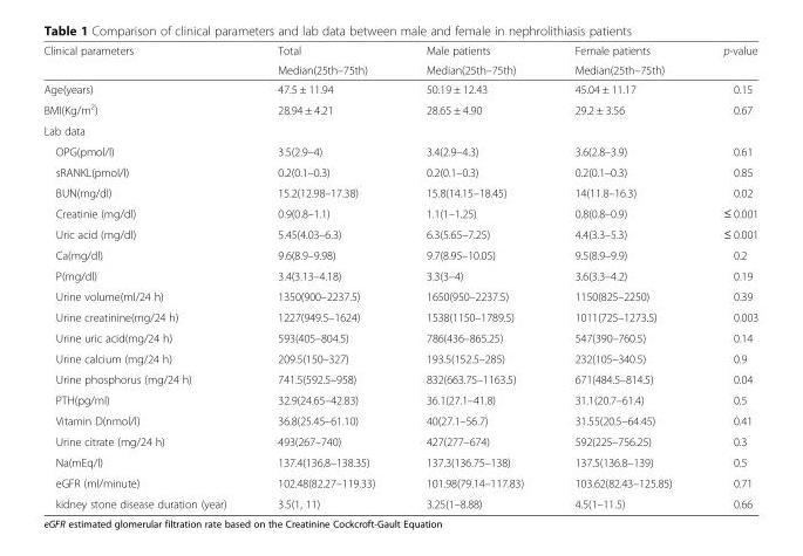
<table><thead><tr><td rowspan="2">Clinical parameters</td><td rowspan="2">Total Median(25th–75th)</td><td rowspan="2">Male patients Median(25th–75th)</td><td rowspan="2">Female patients Median(25th–75th)</td><td rowspan="2">p-value</td></tr><tr></tr></thead><tbody><tr><td>Age(years)</td><td>47.5 ± 11.94</td><td>50.19 ± 12.43</td><td>45.04 ± 11.17</td><td>0.15</td></tr><tr><td>BMI(Kg/m<sup>2</sup>)</td><td>28.94 ± 4.21</td><td>28.65 ± 4.90</td><td>29.2 ± 3.56</td><td>0.67</td></tr><tr><td colspan="5">Lab data</td></tr><tr><td>OPG(pmol/l)</td><td>3.5(2.9–4)</td><td>3.4(2.9–4.3)</td><td>3.6(2.8–3.9)</td><td>0.61</td></tr><tr><td>sRANKL(pmol/l)</td><td>0.2(0.1–0.3)</td><td>0.2(0.1–0.3)</td><td>0.2(0.1–0.3)</td><td>0.85</td></tr><tr><td>BUN(mg/dl)</td><td>15.2(12.98–17.38)</td><td>15.8(14.15–18.45)</td><td>14(11.8–16.3)</td><td>0.02</td></tr><tr><td>Creatinie (mg/dl)</td><td>0.9(0.8–1.1)</td><td>1.1(1–1.25)</td><td>0.8(0.8–0.9)</td><td>≤ 0.001</td></tr><tr><td>Uric acid (mg/dl)</td><td>5.45(4.03–6.3)</td><td>6.3(5.65–7.25)</td><td>4.4(3.3–5.3)</td><td>≤ 0.001</td></tr><tr><td>Ca(mg/dl)</td><td>9.6(8.9–9.98)</td><td>9.7(8.95–10.05)</td><td>9.5(8.9–9.9)</td><td>0.2</td></tr><tr><td>P(mg/dl)</td><td>3.4(3.13–4.18)</td><td>3.3(3–4)</td><td>3.6(3.3–4.2)</td><td>0.19</td></tr><tr><td>Urine volume(ml/24 h)</td><td>1350(900–2237.5)</td><td>1650(950–2237.5)</td><td>1150(825–2250)</td><td>0.39</td></tr><tr><td>Urine creatinine(mg/24 h)</td><td>1227(949.5–1624)</td><td>1538(1150–1789.5)</td><td>1011(725–1273.5)</td><td>0.003</td></tr><tr><td>Urine uric acid(mg/24 h)</td><td>593(405–804.5)</td><td>786(436–865.25)</td><td>547(390–760.5)</td><td>0.14</td></tr><tr><td>Urine calcium (mg/24 h)</td><td>209.5(150–327)</td><td>193.5(152.5–285)</td><td>232(105–340.5)</td><td>0.9</td></tr><tr><td>Urine phosphorus (mg/24 h)</td><td>741.5(592.5–958)</td><td>832(663.75–1163.5)</td><td>671(484.5–814.5)</td><td>0.04</td></tr><tr><td>PTH(pg/ml)</td><td>32.9(24.65–42.83)</td><td>36.1(27.1–41.8)</td><td>31.1(20.7–61.4)</td><td>0.5</td></tr><tr><td>Vitamin D(nmol/l)</td><td>36.8(25.45–61.10)</td><td>40(27.1–56.7)</td><td>31.55(20.5–64.45)</td><td>0.41</td></tr><tr><td>Urine citrate (mg/24 h)</td><td>493(267–740)</td><td>427(277–674)</td><td>592(225–756.25)</td><td>0.3</td></tr><tr><td>Na(mEq/l)</td><td>137.4(136.8–138.35)</td><td>137.3(136.75–138)</td><td>137.5(136.8–139)</td><td>0.5</td></tr><tr><td>eGFR (ml/minute)</td><td>102.48(82.27–119.33)</td><td>101.98(79.14–117.83)</td><td>103.62(82.43–125.85)</td><td>0.71</td></tr><tr><td>kidney stone disease duration (year)</td><td>3.5(1, 11)</td><td>3.25(1–8.88)</td><td>4.5(1–11.5)</td><td>0.66</td></tr></tbody></table>